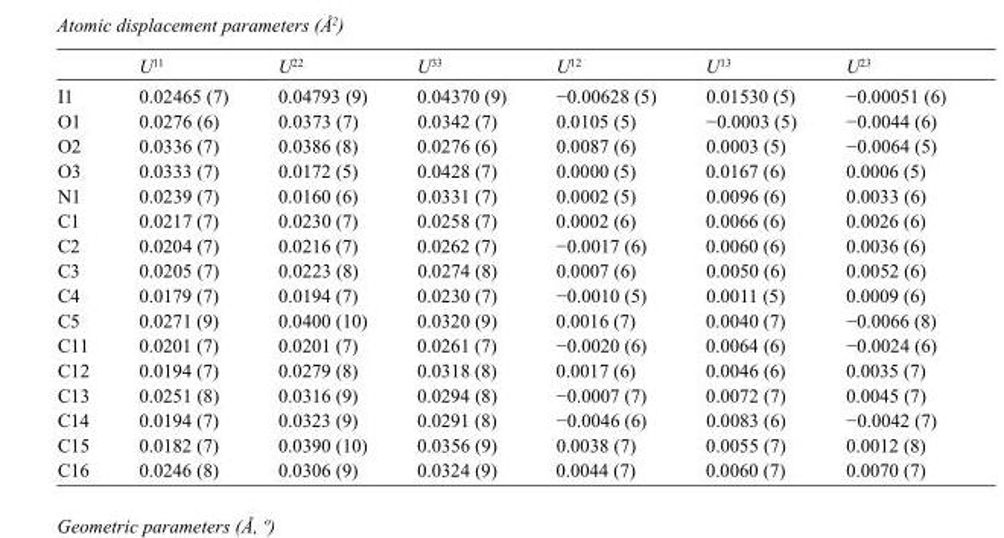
<table><thead><tr><td></td><td>U<sup>11</sup></td><td>U<sup>22</sup></td><td>U<sup>33</sup></td><td>U<sup>12</sup></td><td>U<sup>13</sup></td><td>U<sup>23</sup></td></tr></thead><tbody><tr><td>I1</td><td>0.02465 (7)</td><td>0.04793 (9)</td><td>0.04370 (9)</td><td>−0.00628 (5)</td><td>0.01530 (5)</td><td>−0.00051 (6)</td></tr><tr><td>O1</td><td>0.0276 (6)</td><td>0.0373 (7)</td><td>0.0342 (7)</td><td>0.0105 (5)</td><td>−0.0003 (5)</td><td>−0.0044 (6)</td></tr><tr><td>O2</td><td>0.0336 (7)</td><td>0.0386 (8)</td><td>0.0276 (6)</td><td>0.0087 (6)</td><td>0.0003 (5)</td><td>−0.0064 (5)</td></tr><tr><td>O3</td><td>0.0333 (7)</td><td>0.0172 (5)</td><td>0.0428 (7)</td><td>0.0000 (5)</td><td>0.0167 (6)</td><td>0.0006 (5)</td></tr><tr><td>N1</td><td>0.0239 (7)</td><td>0.0160 (6)</td><td>0.0331 (7)</td><td>0.0002 (5)</td><td>0.0096 (6)</td><td>0.0033 (6)</td></tr><tr><td>C1</td><td>0.0217 (7)</td><td>0.0230 (7)</td><td>0.0258 (7)</td><td>0.0002 (6)</td><td>0.0066 (6)</td><td>0.0026 (6)</td></tr><tr><td>C2</td><td>0.0204 (7)</td><td>0.0216 (7)</td><td>0.0262 (7)</td><td>−0.0017 (6)</td><td>0.0060 (6)</td><td>0.0036 (6)</td></tr><tr><td>C3</td><td>0.0205 (7)</td><td>0.0223 (8)</td><td>0.0274 (8)</td><td>0.0007 (6)</td><td>0.0050 (6)</td><td>0.0052 (6)</td></tr><tr><td>C4</td><td>0.0179 (7)</td><td>0.0194 (7)</td><td>0.0230 (7)</td><td>−0.0010 (5)</td><td>0.0011 (5)</td><td>0.0009 (6)</td></tr><tr><td>C5</td><td>0.0271 (9)</td><td>0.0400 (10)</td><td>0.0320 (9)</td><td>0.0016 (7)</td><td>0.0040 (7)</td><td>−0.0066 (8)</td></tr><tr><td>C11</td><td>0.0201 (7)</td><td>0.0201 (7)</td><td>0.0261 (7)</td><td>−0.0020 (6)</td><td>0.0064 (6)</td><td>−0.0024 (6)</td></tr><tr><td>C12</td><td>0.0194 (7)</td><td>0.0279 (8)</td><td>0.0318 (8)</td><td>0.0017 (6)</td><td>0.0046 (6)</td><td>0.0035 (7)</td></tr><tr><td>C13</td><td>0.0251 (8)</td><td>0.0316 (9)</td><td>0.0294 (8)</td><td>−0.0007 (7)</td><td>0.0072 (7)</td><td>0.0045 (7)</td></tr><tr><td>C14</td><td>0.0194 (7)</td><td>0.0323 (9)</td><td>0.0291 (8)</td><td>−0.0046 (6)</td><td>0.0083 (6)</td><td>−0.0042 (7)</td></tr><tr><td>C15</td><td>0.0182 (7)</td><td>0.0390 (10)</td><td>0.0356 (9)</td><td>0.0038 (7)</td><td>0.0055 (7)</td><td>0.0012 (8)</td></tr><tr><td>C16</td><td>0.0246 (8)</td><td>0.0306 (9)</td><td>0.0324 (9)</td><td>0.0044 (7)</td><td>0.0060 (7)</td><td>0.0070 (7)</td></tr></tbody></table>